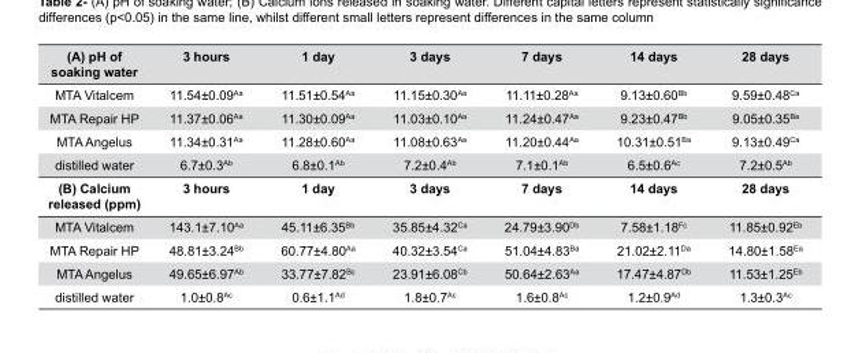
<table><thead><tr><td>(A) pH of soaking water</td><td>3 hours</td><td>1 day</td><td>3 days</td><td>7 days</td><td>14 days</td><td>28 days</td></tr></thead><tbody><tr><td>MTA Vitalcem</td><td>11.54±0.09<sup>Aa</sup></td><td>11.51±0.54<sup>Aa</sup></td><td>11.15±0.30<sup>Aa</sup></td><td>11.11±0.28<sup>Aa</sup></td><td>9.13±0.60<sup>Bb</sup></td><td>9.59±0.48<sup>Ca</sup></td></tr><tr><td>MTA Repair HP</td><td>11.37±0.06<sup>Aa</sup></td><td>11.30±0.09<sup>Aa</sup></td><td>11.03±0.10<sup>Aa</sup></td><td>11.24±0.47<sup>Aa</sup></td><td>9.23±0.47<sup>Bb</sup></td><td>9.05±0.35<sup>Ba</sup></td></tr><tr><td>MTA Angelus</td><td>11.34±0.31<sup>Aa</sup></td><td>11.28±0.60<sup>Aa</sup></td><td>11.08±0.63<sup>Aa</sup></td><td>11.20±0.44<sup>Aa</sup></td><td>10.31±0.51<sup>Ba</sup></td><td>9.13±0.49<sup>Ca</sup></td></tr><tr><td>distilled water</td><td>6.7±0.3<sup>Ab</sup></td><td>6.8±0.1<sup>Ab</sup></td><td>7.2±0.4<sup>Ab</sup></td><td>7.1±0.1<sup>Ab</sup></td><td>6.5±0.6<sup>Ac</sup></td><td>7.2±0.5<sup>Ab</sup></td></tr><tr><td>(B) Calcium released (ppm)</td><td>3 hours</td><td>1 day</td><td>3 days</td><td>7 days</td><td>14 days</td><td>28 days</td></tr><tr><td>MTA Vitalcem</td><td>143.1±7.10<sup>Aa</sup></td><td>45.11±6.35<sup>Bb</sup></td><td>35.85±4.32<sup>Ca</sup></td><td>24.79±3.90<sup>Db</sup></td><td>7.58±1.18<sup>Fc</sup></td><td>11.85±0.92<sup>Eb</sup></td></tr><tr><td>MTA Repair HP</td><td>48.81±3.24<sup>Bb</sup></td><td>60.77±4.80<sup>Aa</sup></td><td>40.32±3.54<sup>Ca</sup></td><td>51.04±4.83<sup>Ba</sup></td><td>21.02±2.11<sup>Da</sup></td><td>14.80±1.58<sup>Ea</sup></td></tr><tr><td>MTA Angelus</td><td>49.65±6.97<sup>Ab</sup></td><td>33.77±7.82<sup>Bc</sup></td><td>23.91±6.08<sup>Cb</sup></td><td>50.64±2.63<sup>Aa</sup></td><td>17.47±4.87<sup>Db</sup></td><td>11.53±1.25<sup>Eb</sup></td></tr><tr><td>distilled water</td><td>1.0±0.8<sup>Ac</sup></td><td>0.6±1.1<sup>Ad</sup></td><td>1.8±0.7<sup>Ac</sup></td><td>1.6±0.8<sup>Ac</sup></td><td>1.2±0.9<sup>Ad</sup></td><td>1.3±0.3<sup>Ac</sup></td></tr></tbody></table>